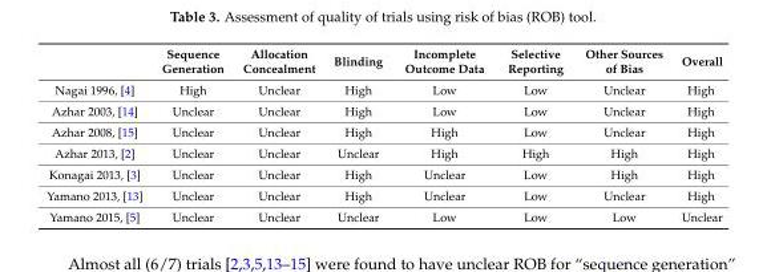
<table><thead><tr><td></td><td>Sequence Generation</td><td>Allocation Concealment</td><td>Blinding</td><td>Incomplete Outcome Data</td><td>Selective Reporting</td><td>Other Sources of Bias</td><td>Overall</td></tr></thead><tbody><tr><td>Nagai 1996, [4]</td><td>High</td><td>Unclear</td><td>High</td><td>Low</td><td>Low</td><td>Unclear</td><td>High</td></tr><tr><td>Azhar 2003, [14]</td><td>Unclear</td><td>Unclear</td><td>High</td><td>Low</td><td>Low</td><td>Unclear</td><td>High</td></tr><tr><td>Azhar 2008, [15]</td><td>Unclear</td><td>Unclear</td><td>High</td><td>High</td><td>Low</td><td>Unclear</td><td>High</td></tr><tr><td>Azhar 2013, [2]</td><td>Unclear</td><td>Unclear</td><td>Unclear</td><td>High</td><td>High</td><td>High</td><td>High</td></tr><tr><td>Konagai 2013, [3]</td><td>Unclear</td><td>Unclear</td><td>High</td><td>Unclear</td><td>Low</td><td>High</td><td>High</td></tr><tr><td>Yamano 2013, [13]</td><td>Unclear</td><td>Unclear</td><td>High</td><td>Unclear</td><td>Low</td><td>Unclear</td><td>High</td></tr><tr><td>Yamano 2015, [5]</td><td>Unclear</td><td>Unclear</td><td>Unclear</td><td>Low</td><td>Low</td><td>Low</td><td>Unclear</td></tr></tbody></table>